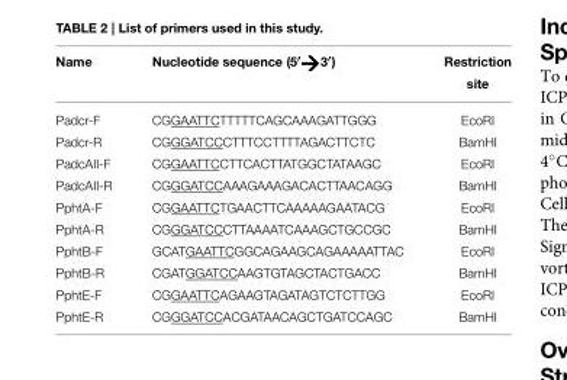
<table><thead><tr><td>Name</td><td>Nucleotide sequence (5′ 3′)</td><td>Restriction site</td></tr></thead><tbody><tr><td>Padcr-F</td><td>CGGAATTCTTTTTCAGCAAAGATTGGG</td><td>EcoRI</td></tr><tr><td>Padcr-R</td><td>CGGGATCCCTTTCCTTTTAGACTTCTC</td><td>BamHI</td></tr><tr><td>PadcAII-F</td><td>CGGAATTCCTTCACTTATGGCTATAAGC</td><td>EcoRI</td></tr><tr><td>PadcAII-R</td><td>CGGGATCCAAAGAAAGACACTTAACAGG</td><td>BamHI</td></tr><tr><td>PphtA-F</td><td>CGGAATTCTGAACTTCAAAAAGAATACG</td><td>EcoRI</td></tr><tr><td>PphtA-R</td><td>CGGGATCCCTTAAAATCAAAGCTGCCGC</td><td>BamHI</td></tr><tr><td>PphtB-F</td><td>GCATGAATTCGGCAGAAGCAGAAAAATTAC</td><td>EcoRI</td></tr><tr><td>PphtB-R</td><td>CGATGGATCCAAGTGTAGCTACTGACC</td><td>BamHI</td></tr><tr><td>PphtE-F</td><td>CGGAATTCAGAAGTAGATAGTCTCTTGG</td><td>EcoRI</td></tr><tr><td>PphtE-R</td><td>CGGGATCCACGATAACAGCTGATCCAGC</td><td>BamHI</td></tr></tbody></table>